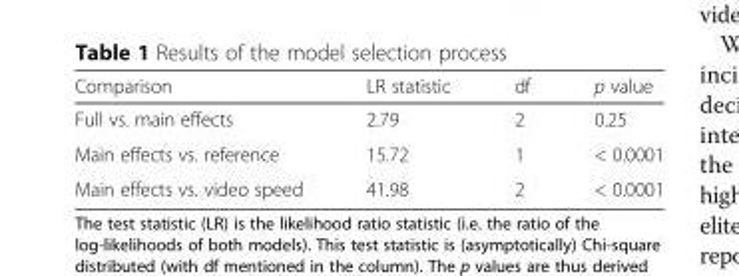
<table><thead><tr><td>Comparison</td><td>LR statistic</td><td>df</td><td>p value</td></tr></thead><tbody><tr><td>Full vs. main effects</td><td>2.79</td><td>2</td><td>0.25</td></tr><tr><td>Main effects vs. reference</td><td>15.72</td><td>1</td><td>&lt; 0.0001</td></tr><tr><td>Main effects vs. video speed</td><td>41.98</td><td>2</td><td>&lt; 0.0001</td></tr></tbody></table>